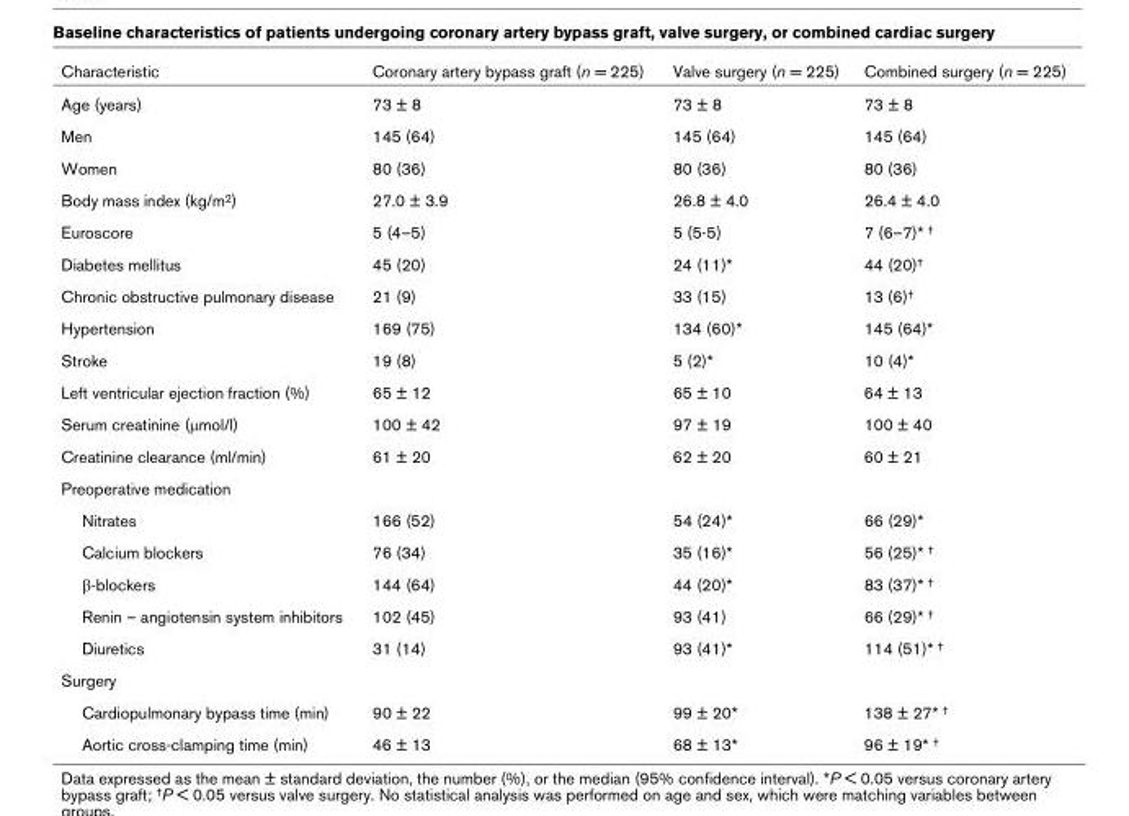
<table><thead><tr><td>Characteristic</td><td>Coronary artery bypass graft (n = 225)</td><td>Valve surgery (n = 225)</td><td>Combined surgery (n = 225)</td></tr></thead><tbody><tr><td>Age (years)</td><td>73 ± 8</td><td>73 ± 8</td><td>73 ± 8</td></tr><tr><td>Men</td><td>145 (64)</td><td>145 (64)</td><td>145 (64)</td></tr><tr><td>Women</td><td>80 (36)</td><td>80 (36)</td><td>80 (36)</td></tr><tr><td>Body mass index (kg/m<sup>2</sup>)</td><td>27.0 ± 3.9</td><td>26.8 ± 4.0</td><td>26.4 ± 4.0</td></tr><tr><td>Euroscore</td><td>5 (4–5)</td><td>5 (5-5)</td><td>7 (6–7)* <sup>†</sup></td></tr><tr><td>Diabetes mellitus</td><td>45 (20)</td><td>24 (11)*</td><td>44 (20)<sup>†</sup></td></tr><tr><td>Chronic obstructive pulmonary disease</td><td>21 (9)</td><td>33 (15)</td><td>13 (6)<sup>†</sup></td></tr><tr><td>Hypertension</td><td>169 (75)</td><td>134 (60)*</td><td>145 (64)*</td></tr><tr><td>Stroke</td><td>19 (8)</td><td>5 (2)*</td><td>10 (4)*</td></tr><tr><td>Left ventricular ejection fraction (%)</td><td>65 ± 12</td><td>65 ± 10</td><td>64 ± 13</td></tr><tr><td>Serum creatinine (μmol/l)</td><td>100 ± 42</td><td>97 ± 19</td><td>100 ± 40</td></tr><tr><td>Creatinine clearance (ml/min)</td><td>61 ± 20</td><td>62 ± 20</td><td>60 ± 21</td></tr><tr><td colspan="4">Preoperative medication</td></tr><tr><td>Nitrates</td><td>166 (52)</td><td>54 (24)*</td><td>66 (29)*</td></tr><tr><td>Calcium blockers</td><td>76 (34)</td><td>35 (16)*</td><td>56 (25)* <sup>†</sup></td></tr><tr><td>β-blockers</td><td>144 (64)</td><td>44 (20)*</td><td>83 (37)* <sup>†</sup></td></tr><tr><td>Renin – angiotensin system inhibitors</td><td>102 (45)</td><td>93 (41)</td><td>66 (29)* <sup>†</sup></td></tr><tr><td>Diuretics</td><td>31 (14)</td><td>93 (41)*</td><td>114 (51)* <sup>†</sup></td></tr><tr><td colspan="4">Surgery</td></tr><tr><td>Cardiopulmonary bypass time (min)</td><td>90 ± 22</td><td>99 ± 20*</td><td>138 ± 27* <sup>†</sup></td></tr><tr><td>Aortic cross-clamping time (min)</td><td>46 ± 13</td><td>68 ± 13*</td><td>96 ± 19* <sup>†</sup></td></tr></tbody></table>